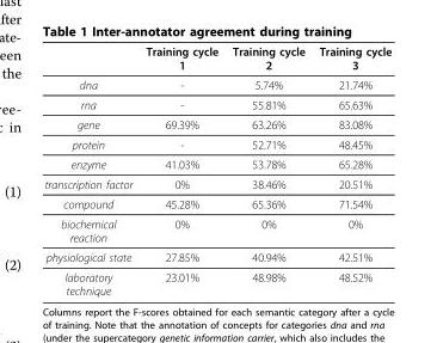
<table><thead><tr><td></td><td>Training cycle 1</td><td>Training cycle 2</td><td>Training cycle 3</td></tr></thead><tbody><tr><td>dna</td><td>-</td><td>5.74%</td><td>21.74%</td></tr><tr><td>rna</td><td>-</td><td>55.81%</td><td>65.63%</td></tr><tr><td>gene</td><td>69.39%</td><td>63.26%</td><td>83.08%</td></tr><tr><td>protein</td><td>-</td><td>52.71%</td><td>48.45%</td></tr><tr><td>enzyme</td><td>41.03%</td><td>53.78%</td><td>65.28%</td></tr><tr><td>transcription factor</td><td>0%</td><td>38.46%</td><td>20.51%</td></tr><tr><td>compound</td><td>45.28%</td><td>65.36%</td><td>71.54%</td></tr><tr><td>biochemical reaction</td><td>0%</td><td>0%</td><td>0%</td></tr><tr><td>physiological state</td><td>27.85%</td><td>40.94%</td><td>42.51%</td></tr><tr><td>laboratory technique</td><td>23.01%</td><td>48.98%</td><td>48.52%</td></tr></tbody></table>